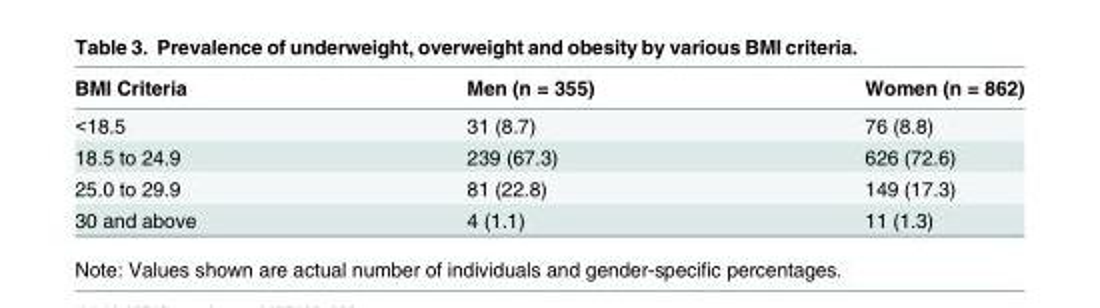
<table><thead><tr><td>BMI Criteria</td><td>Men (n = 355)</td><td>Women (n = 862)</td></tr></thead><tbody><tr><td>&lt;18.5</td><td>31 (8.7)</td><td>76 (8.8)</td></tr><tr><td>18.5 to 24.9</td><td>239 (67.3)</td><td>626 (72.6)</td></tr><tr><td>25.0 to 29.9</td><td>81 (22.8)</td><td>149 (17.3)</td></tr><tr><td>30 and above</td><td>4 (1.1)</td><td>11 (1.3)</td></tr></tbody></table>